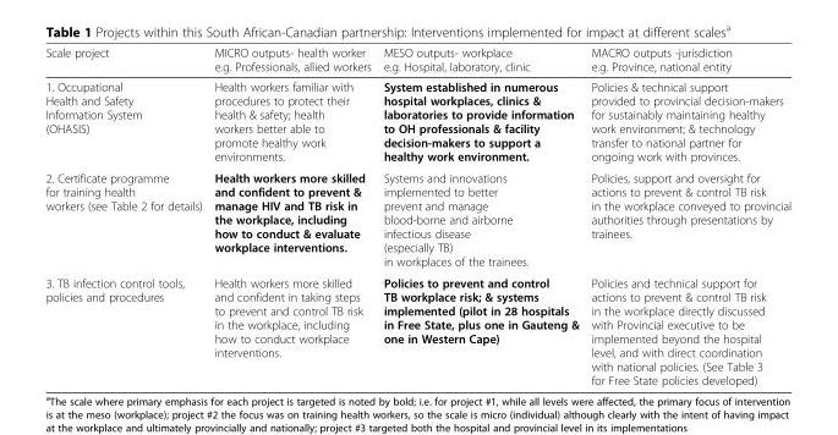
<table><thead><tr><td>Scale project</td><td>MICRO outputs- health worker e.g. Professionals, allied workers</td><td>MESO outputs- workplace e.g. Hospital, laboratory, clinic</td><td>MACRO outputs -jurisdiction e.g. Province, national entity</td></tr></thead><tbody><tr><td>1. Occupational Health and Safety Information System (OHASIS)</td><td>Health workers familiar with procedures to protect their health &amp; safety; health workers better able to promote healthy work environments.</td><td>System established in numerous hospital workplaces, clinics &amp; laboratories to provide information to OH professionals &amp; facility decision-makers to support a healthy work environment.</td><td>Policies &amp; technical support provided to provincial decision-makers for sustainably maintaining healthy work environment; &amp; technology transfer to national partner for ongoing work with provinces.</td></tr><tr><td>2. Certificate programme for training health workers (see Table 2 for details)</td><td>Health workers more skilled and confident to prevent &amp; manage HIV and TB risk in the workplace, including how to conduct &amp; evaluate workplace interventions.</td><td>Systems and innovations implemented to better prevent and manage blood-borne and airborne infectious disease (especially TB) in workplaces of the trainees.</td><td>Policies, support and oversight for actions to prevent &amp; control TB risk in the workplace conveyed to provincial authorities through presentations by trainees.</td></tr><tr><td>3. TB infection control tools, policies and procedures</td><td>Health workers more skilled and confident in taking steps to prevent and control TB risk in the workplace, including how to conduct workplace interventions.</td><td>Policies to prevent and control TB workplace risk; &amp; systems implemented (pilot in 28 hospitals in Free State, plus one in Gauteng &amp; one in Western Cape)</td><td>Policies and technical support for actions to prevent &amp; control TB risk in the workplace directly discussed with Provincial executive to be implemented beyond the hospital level, and with direct coordination with national policies. (See Table 3 for Free State policies developed)</td></tr></tbody></table>